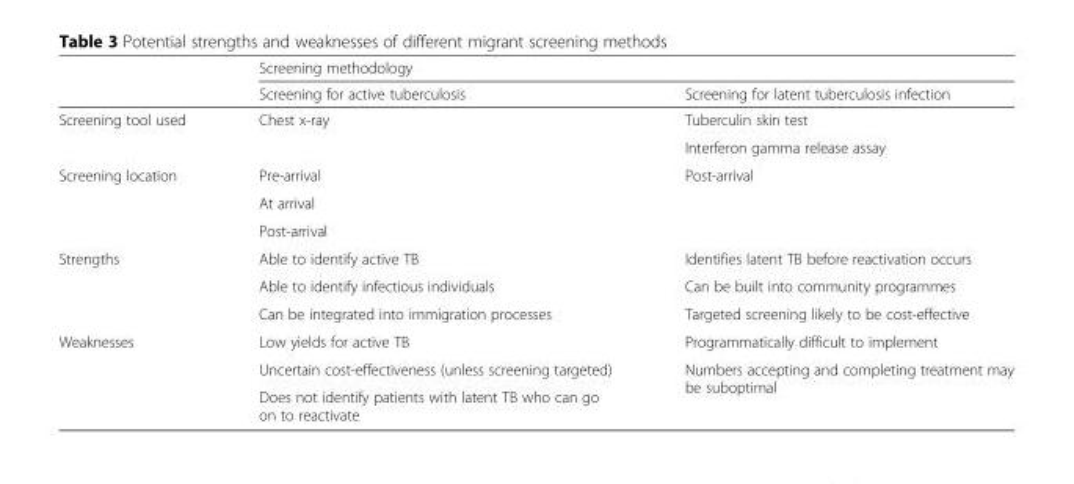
<table><thead><tr><td rowspan="2"></td><td colspan="2">Screening methodology</td></tr><tr><td>Screening for active tuberculosis</td><td>Screening for latent tuberculosis infection</td></tr></thead><tbody><tr><td rowspan="2">Screening tool used</td><td rowspan="2">Chest x-ray</td><td>Tuberculin skin test</td></tr><tr><td>Interferon gamma release assay</td></tr><tr><td rowspan="3">Screening location</td><td>Pre-arrival</td><td rowspan="3">Post-arrival</td></tr><tr><td>At arrival</td></tr><tr><td>Post-arrival</td></tr><tr><td rowspan="3">Strengths</td><td>Able to identify active TB</td><td>Identifies latent TB before reactivation occurs</td></tr><tr><td>Able to identify infectious individuals</td><td>Can be built into community programmes</td></tr><tr><td>Can be integrated into immigration processes</td><td>Targeted screening likely to be cost-effective</td></tr><tr><td rowspan="3">Weaknesses</td><td>Low yields for active TB</td><td>Programmatically difficult to implement</td></tr><tr><td>Uncertain cost-effectiveness (unless screening targeted)</td><td rowspan="2">Numbers accepting and completing treatment may be suboptimal</td></tr><tr><td>Does not identify patients with latent TB who can go on to reactivate</td></tr></tbody></table>